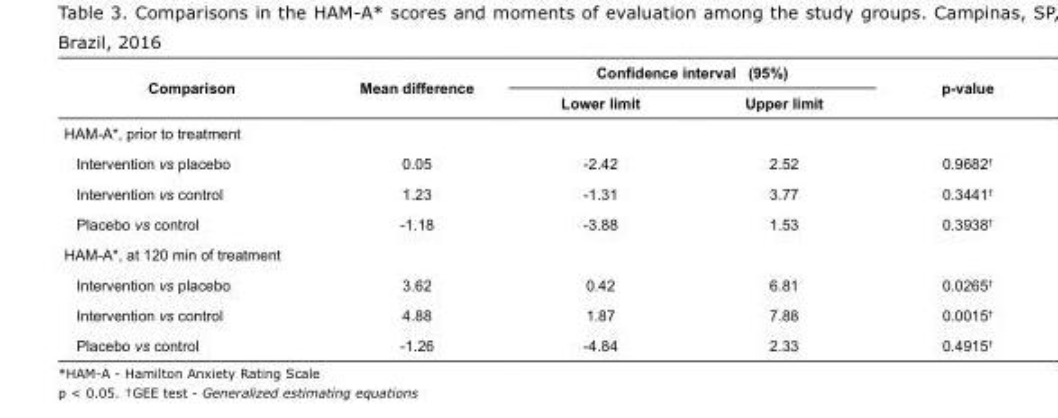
<table><tbody><tr><td rowspan="2">Comparison</td><td rowspan="2">Mean difference</td><td colspan="2">Confidence interval (95%)</td><td rowspan="2">p-value</td></tr><tr><td>Lower limit</td><td>Upper limit</td></tr><tr><td colspan="5">HAM-A*, prior to treatment</td></tr><tr><td>Intervention vs placebo</td><td>0.05</td><td>-2.42</td><td>2.52</td><td>0.9682<sup>†</sup></td></tr><tr><td>Intervention vs control</td><td>1.23</td><td>-1.31</td><td>3.77</td><td>0.3441<sup>†</sup></td></tr><tr><td>Placebo vs control</td><td>-1.18</td><td>-3.88</td><td>1.53</td><td>0.3938<sup>†</sup></td></tr><tr><td colspan="5">HAM-A*, at 120 min of treatment</td></tr><tr><td>Intervention vs placebo</td><td>3.62</td><td>0.42</td><td>6.81</td><td>0.0265<sup>†</sup></td></tr><tr><td>Intervention vs control</td><td>4.88</td><td>1.87</td><td>7.88</td><td>0.0015<sup>†</sup></td></tr><tr><td>Placebo vs control</td><td>-1.26</td><td>-4.84</td><td>2.33</td><td>0.4915<sup>†</sup></td></tr></tbody></table>